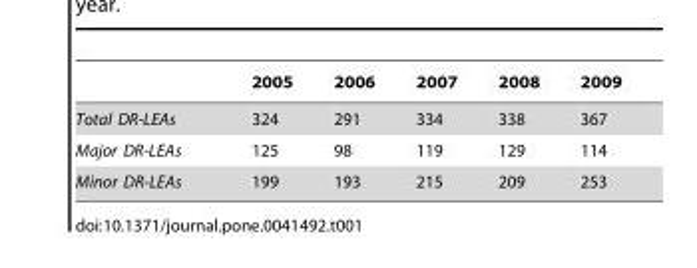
<table><thead><tr><td></td><td>2005</td><td>2006</td><td>2007</td><td>2008</td><td>2009</td></tr></thead><tbody><tr><td>Total DR-LEAs</td><td>324</td><td>291</td><td>334</td><td>338</td><td>367</td></tr><tr><td>Major DR-LEAs</td><td>125</td><td>98</td><td>119</td><td>129</td><td>114</td></tr><tr><td>Minor DR-LEAs</td><td>199</td><td>193</td><td>215</td><td>209</td><td>253</td></tr></tbody></table>